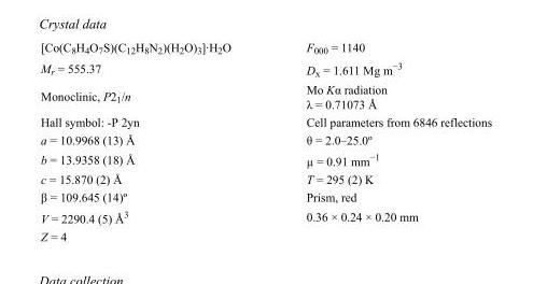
<table><tbody><tr><td>[Co(C<sub>8</sub>H<sub>4</sub>O<sub>7</sub>S)(C<sub>12</sub>H<sub>8</sub>N<sub>2</sub>)(H<sub>2</sub>O)<sub>3</sub>]·H<sub>2</sub>O</td><td>F<sub>000</sub> = 1140</td></tr><tr><td>M<sub>r</sub> = 555.37</td><td>D<sub>x</sub> = 1.611 Mg m<sup>−3</sup></td></tr><tr><td>Monoclinic, P2<sub>1</sub>/n</td><td>Mo Kα radiation λ = 0.71073 Å</td></tr><tr><td>Hall symbol: -P 2yn</td><td>Cell parameters from 6846 reflections</td></tr><tr><td>a = 10.9968 (13) Å</td><td>θ = 2.0–25.0º</td></tr><tr><td>b = 13.9358 (18) Å</td><td>µ = 0.91 mm<sup>−1</sup></td></tr><tr><td>c = 15.870 (2) Å</td><td>T = 295 (2) K</td></tr><tr><td>β = 109.645 (14)º</td><td>Prism, red</td></tr><tr><td>V = 2290.4 (5) Å<sup>3</sup></td><td>0.36 × 0.24 × 0.20 mm</td></tr><tr><td>Z = 4</td><td></td></tr></tbody></table>